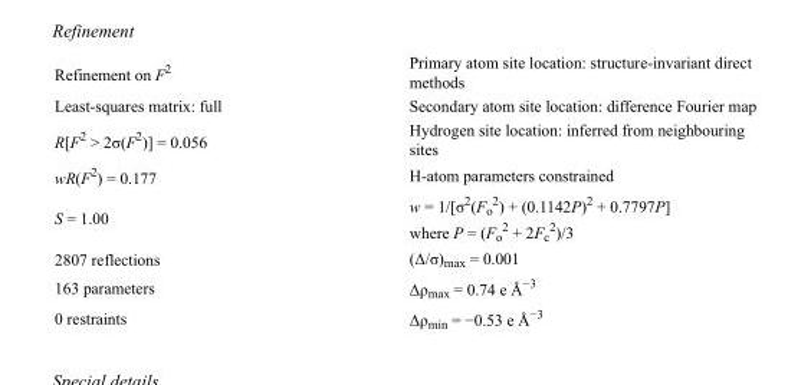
<table><tbody><tr><td>Refinement on F<sup>2</sup></td><td>Primary atom site location: structure-invariant direct methods</td></tr><tr><td>Least-squares matrix: full</td><td>Secondary atom site location: difference Fourier map</td></tr><tr><td>R[F<sup>2</sup> &gt; 2σ(F<sup>2</sup>)] = 0.056</td><td>Hydrogen site location: inferred from neighbouring sites</td></tr><tr><td>wR(F<sup>2</sup>) = 0.177</td><td>H-atom parameters constrained</td></tr><tr><td>S = 1.00</td><td>w = 1/[σ<sup>2</sup>(F<sub>o</sub> <sup>2</sup>) + (0.1142P)<sup>2</sup> + 0.7797P] where P = (F<sub>o</sub> <sup>2</sup> + 2F<sub>c</sub> <sup>2</sup>)/3</td></tr><tr><td>2807 reflections</td><td>(Δ/σ)<sub>max</sub> = 0.001</td></tr><tr><td>163 parameters</td><td>Δρ<sub>max</sub> = 0.74 e Å<sup>−3</sup></td></tr><tr><td>0 restraints</td><td>Δρ<sub>min</sub> = −0.53 e Å<sup>−3</sup></td></tr></tbody></table>